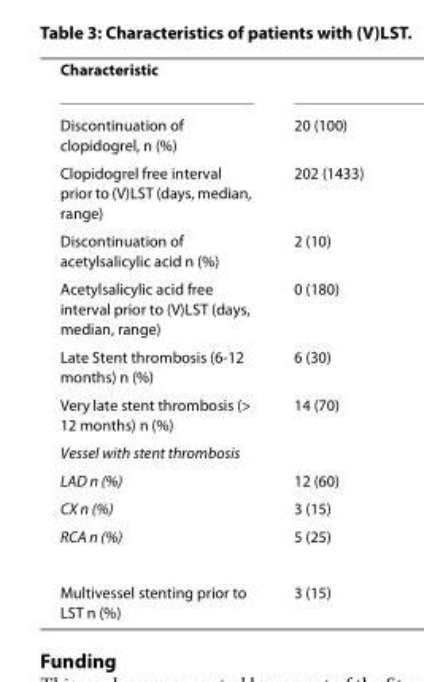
<table><tbody><tr><td colspan="2">Characteristic</td></tr><tr><td>Discontinuation of clopidogrel, n (%)</td><td>20 (100)</td></tr><tr><td>Clopidogrel free interval prior to (V)LST (days, median, range)</td><td>202 (1433)</td></tr><tr><td>Discontinuation of acetylsalicylic acid n (%)</td><td>2 (10)</td></tr><tr><td>Acetylsalicylic acid free interval prior to (V)LST (days, median, range)</td><td>0 (180)</td></tr><tr><td>Late Stent thrombosis (6-12 months) n (%)</td><td>6 (30)</td></tr><tr><td>Very late stent thrombosis (&gt; 12 months) n (%)</td><td>14 (70)</td></tr><tr><td colspan="2">Vessel with stent thrombosis</td></tr><tr><td>LAD n (%)</td><td>12 (60)</td></tr><tr><td>CX n (%)</td><td>3 (15)</td></tr><tr><td>RCA n (%)</td><td>5 (25)</td></tr><tr><td>Multivessel stenting prior to LST n (%)</td><td>3 (15)</td></tr></tbody></table>